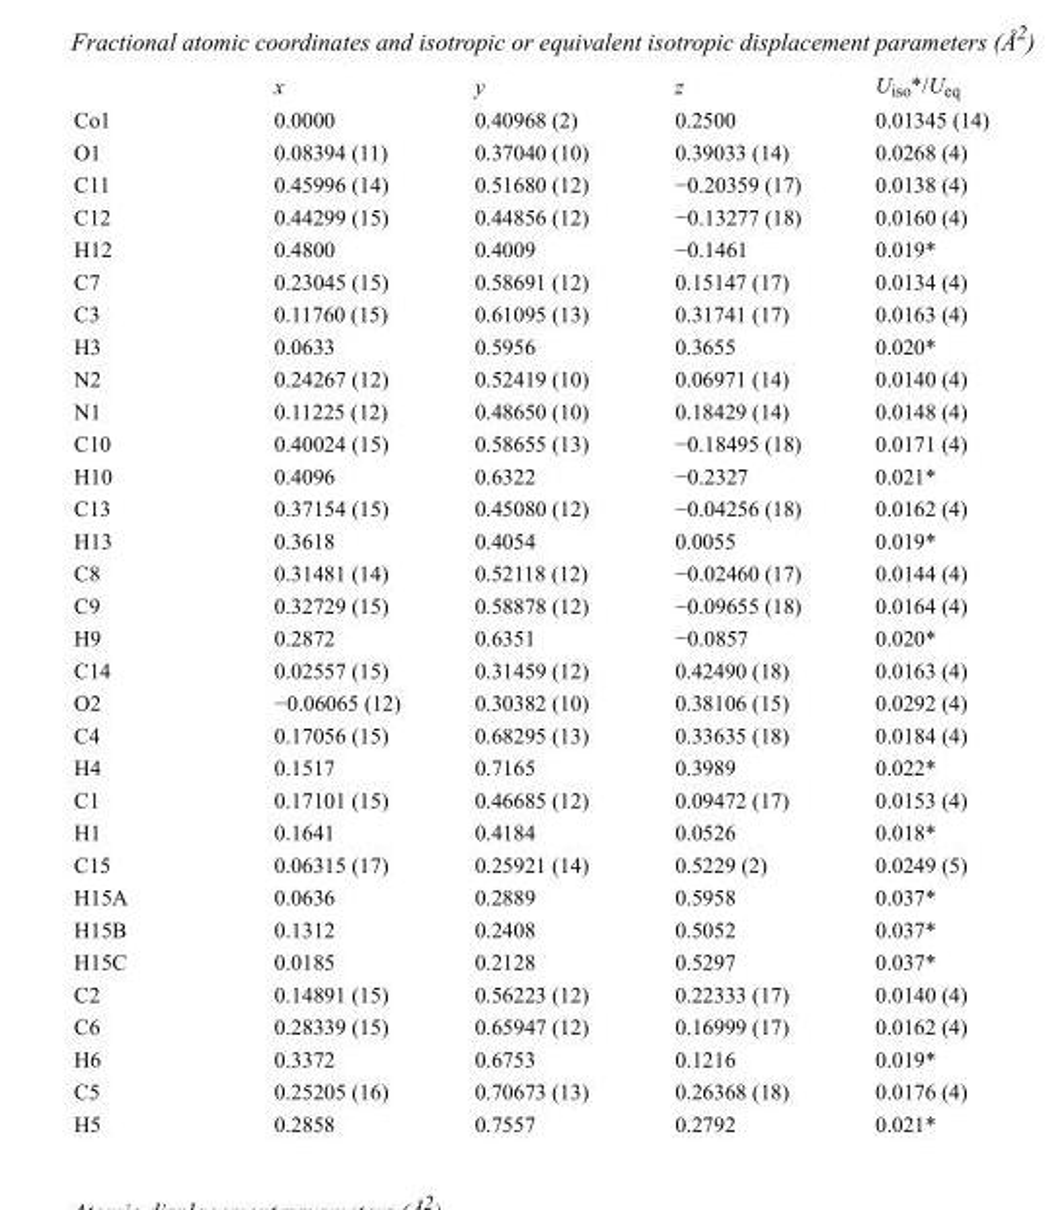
<table><thead><tr><td></td><td>x</td><td>y</td><td>z</td><td>U<sub>iso</sub>*/U<sub>eq</sub></td></tr></thead><tbody><tr><td>Co1</td><td>0.0000</td><td>0.40968 (2)</td><td>0.2500</td><td>0.01345 (14)</td></tr><tr><td>O1</td><td>0.08394 (11)</td><td>0.37040 (10)</td><td>0.39033 (14)</td><td>0.0268 (4)</td></tr><tr><td>C11</td><td>0.45996 (14)</td><td>0.51680 (12)</td><td>−0.20359 (17)</td><td>0.0138 (4)</td></tr><tr><td>C12</td><td>0.44299 (15)</td><td>0.44856 (12)</td><td>−0.13277 (18)</td><td>0.0160 (4)</td></tr><tr><td>H12</td><td>0.4800</td><td>0.4009</td><td>−0.1461</td><td>0.019*</td></tr><tr><td>C7</td><td>0.23045 (15)</td><td>0.58691 (12)</td><td>0.15147 (17)</td><td>0.0134 (4)</td></tr><tr><td>C3</td><td>0.11760 (15)</td><td>0.61095 (13)</td><td>0.31741 (17)</td><td>0.0163 (4)</td></tr><tr><td>H3</td><td>0.0633</td><td>0.5956</td><td>0.3655</td><td>0.020*</td></tr><tr><td>N2</td><td>0.24267 (12)</td><td>0.52419 (10)</td><td>0.06971 (14)</td><td>0.0140 (4)</td></tr><tr><td>N1</td><td>0.11225 (12)</td><td>0.48650 (10)</td><td>0.18429 (14)</td><td>0.0148 (4)</td></tr><tr><td>C10</td><td>0.40024 (15)</td><td>0.58655 (13)</td><td>−0.18495 (18)</td><td>0.0171 (4)</td></tr><tr><td>H10</td><td>0.4096</td><td>0.6322</td><td>−0.2327</td><td>0.021*</td></tr><tr><td>C13</td><td>0.37154 (15)</td><td>0.45080 (12)</td><td>−0.04256 (18)</td><td>0.0162 (4)</td></tr><tr><td>H13</td><td>0.3618</td><td>0.4054</td><td>0.0055</td><td>0.019*</td></tr><tr><td>C8</td><td>0.31481 (14)</td><td>0.52118 (12)</td><td>−0.02460 (17)</td><td>0.0144 (4)</td></tr><tr><td>C9</td><td>0.32729 (15)</td><td>0.58878 (12)</td><td>−0.09655 (18)</td><td>0.0164 (4)</td></tr><tr><td>H9</td><td>0.2872</td><td>0.6351</td><td>−0.0857</td><td>0.020*</td></tr><tr><td>C14</td><td>0.02557 (15)</td><td>0.31459 (12)</td><td>0.42490 (18)</td><td>0.0163 (4)</td></tr><tr><td>O2</td><td>−0.06065 (12)</td><td>0.30382 (10)</td><td>0.38106 (15)</td><td>0.0292 (4)</td></tr><tr><td>C4</td><td>0.17056 (15)</td><td>0.68295 (13)</td><td>0.33635 (18)</td><td>0.0184 (4)</td></tr><tr><td>H4</td><td>0.1517</td><td>0.7165</td><td>0.3989</td><td>0.022*</td></tr><tr><td>C1</td><td>0.17101 (15)</td><td>0.46685 (12)</td><td>0.09472 (17)</td><td>0.0153 (4)</td></tr><tr><td>H1</td><td>0.1641</td><td>0.4184</td><td>0.0526</td><td>0.018*</td></tr><tr><td>C15</td><td>0.06315 (17)</td><td>0.25921 (14)</td><td>0.5229 (2)</td><td>0.0249 (5)</td></tr><tr><td>H15A</td><td>0.0636</td><td>0.2889</td><td>0.5958</td><td>0.037*</td></tr><tr><td>H15B</td><td>0.1312</td><td>0.2408</td><td>0.5052</td><td>0.037*</td></tr><tr><td>H15C</td><td>0.0185</td><td>0.2128</td><td>0.5297</td><td>0.037*</td></tr><tr><td>C2</td><td>0.14891 (15)</td><td>0.56223 (12)</td><td>0.22333 (17)</td><td>0.0140 (4)</td></tr><tr><td>C6</td><td>0.28339 (15)</td><td>0.65947 (12)</td><td>0.16999 (17)</td><td>0.0162 (4)</td></tr><tr><td>H6</td><td>0.3372</td><td>0.6753</td><td>0.1216</td><td>0.019*</td></tr><tr><td>C5</td><td>0.25205 (16)</td><td>0.70673 (13)</td><td>0.26368 (18)</td><td>0.0176 (4)</td></tr><tr><td>H5</td><td>0.2858</td><td>0.7557</td><td>0.2792</td><td>0.021*</td></tr></tbody></table>